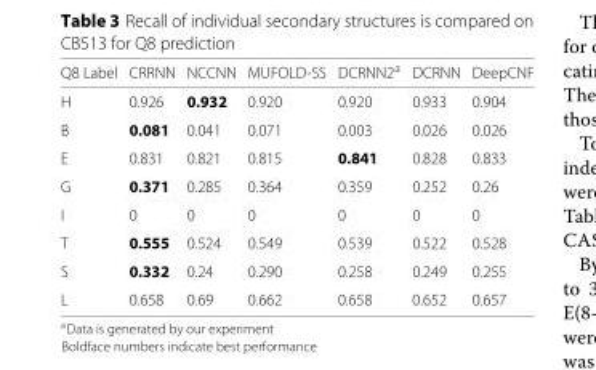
<table><thead><tr><td>Q8 Label</td><td>CRRNN</td><td>NCCNN</td><td>MUFOLD-SS</td><td>DCRNN2<sup>a</sup></td><td>DCRNN</td><td>DeepCNF</td></tr></thead><tbody><tr><td>H</td><td>0.926</td><td>0.932</td><td>0.920</td><td>0.920</td><td>0.933</td><td>0.904</td></tr><tr><td>B</td><td>0.081</td><td>0.041</td><td>0.071</td><td>0.003</td><td>0.026</td><td>0.026</td></tr><tr><td>E</td><td>0.831</td><td>0.821</td><td>0.815</td><td>0.841</td><td>0.828</td><td>0.833</td></tr><tr><td>G</td><td>0.371</td><td>0.285</td><td>0.364</td><td>0.359</td><td>0.252</td><td>0.26</td></tr><tr><td>I</td><td>0</td><td>0</td><td>0</td><td>0</td><td>0</td><td>0</td></tr><tr><td>T</td><td>0.555</td><td>0.524</td><td>0.549</td><td>0.539</td><td>0.522</td><td>0.528</td></tr><tr><td>S</td><td>0.332</td><td>0.24</td><td>0.290</td><td>0.258</td><td>0.249</td><td>0.255</td></tr><tr><td>L</td><td>0.658</td><td>0.69</td><td>0.662</td><td>0.658</td><td>0.652</td><td>0.657</td></tr></tbody></table>